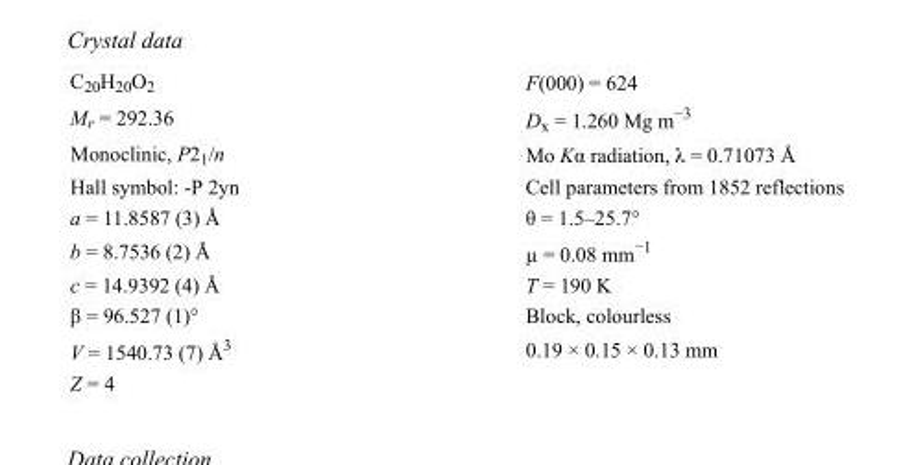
<table><tbody><tr><td>C<sub>20</sub>H<sub>20</sub>O<sub>2</sub></td><td>F(000) = 624</td></tr><tr><td>M<sub>r</sub> = 292.36</td><td>D<sub>x</sub> = 1.260 Mg m<sup>−3</sup></td></tr><tr><td>Monoclinic, P2<sub>1</sub>/n</td><td>Mo Kα radiation, λ = 0.71073 Å</td></tr><tr><td>Hall symbol: -P 2yn</td><td>Cell parameters from 1852 reflections</td></tr><tr><td>a = 11.8587 (3) Å</td><td>θ = 1.5–25.7°</td></tr><tr><td>b = 8.7536 (2) Å</td><td>µ = 0.08 mm<sup>−1</sup></td></tr><tr><td>c = 14.9392 (4) Å</td><td>T = 190 K</td></tr><tr><td>β = 96.527 (1)°</td><td>Block, colourless</td></tr><tr><td>V = 1540.73 (7) Å<sup>3</sup></td><td>0.19 × 0.15 × 0.13 mm</td></tr><tr><td>Z = 4</td><td></td></tr></tbody></table>